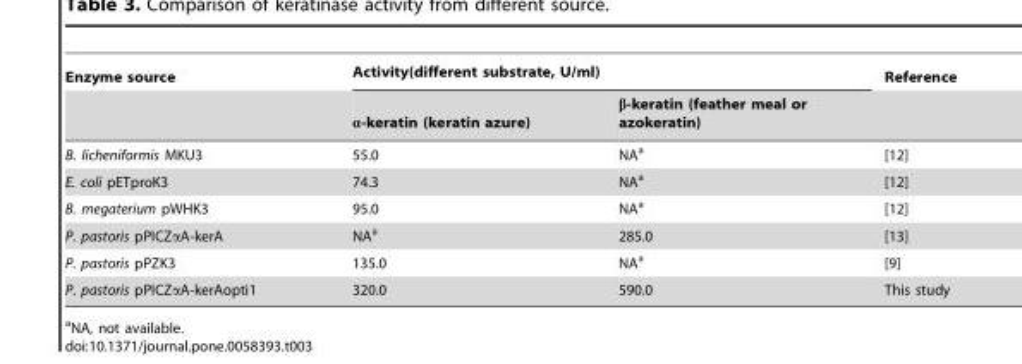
<table><thead><tr><td rowspan="2">Enzyme source</td><td colspan="2">Activity(different substrate, U/ml)</td><td rowspan="2">Reference</td></tr><tr><td>α-keratin (keratin azure)</td><td>β-keratin (feather meal or azokeratin)</td></tr></thead><tbody><tr><td>B. licheniformis MKU3</td><td>55.0</td><td>NA<sup>a</sup></td><td>[12]</td></tr><tr><td>E. coli pETproK3</td><td>74.3</td><td>NA<sup>a</sup></td><td>[12]</td></tr><tr><td>B. megaterium pWHK3</td><td>95.0</td><td>NA<sup>a</sup></td><td>[12]</td></tr><tr><td>P. pastoris pPICZαA-kerA</td><td>NA<sup>a</sup></td><td>285.0</td><td>[13]</td></tr><tr><td>P. pastoris pPZK3</td><td>135.0</td><td>NA<sup>a</sup></td><td>[9]</td></tr><tr><td>P. pastoris pPICZαA-kerAopti1</td><td>320.0</td><td>590.0</td><td>This study</td></tr></tbody></table>